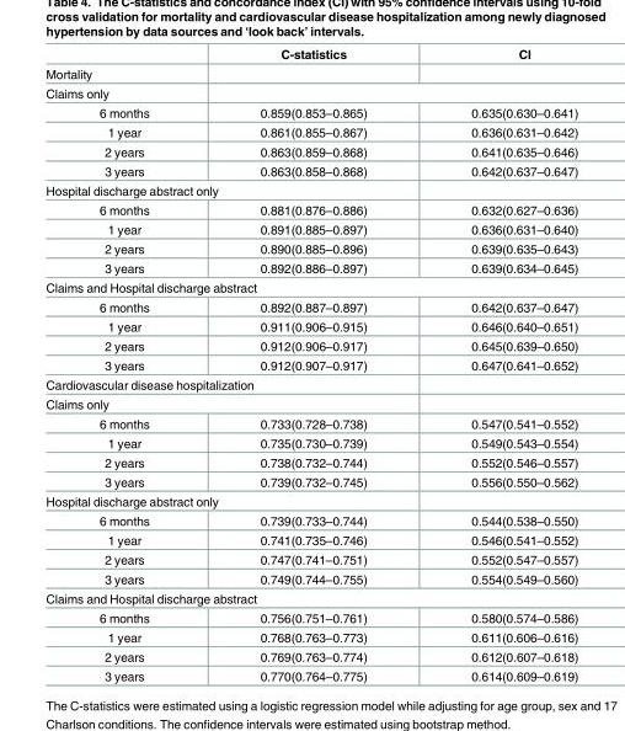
<table><thead><tr><td></td><td>C-statistics</td><td>CI</td></tr></thead><tbody><tr><td colspan="3">Mortality</td></tr><tr><td colspan="3">Claims only</td></tr><tr><td>6 months</td><td>0.859(0.853–0.865)</td><td>0.635(0.630–0.641)</td></tr><tr><td>1 year</td><td>0.861(0.855–0.867)</td><td>0.636(0.631–0.642)</td></tr><tr><td>2 years</td><td>0.863(0.859–0.868)</td><td>0.641(0.635–0.646)</td></tr><tr><td>3 years</td><td>0.863(0.858–0.868)</td><td>0.642(0.637–0.647)</td></tr><tr><td colspan="3">Hospital discharge abstract only</td></tr><tr><td>6 months</td><td>0.881(0.876–0.886)</td><td>0.632(0.627–0.636)</td></tr><tr><td>1 year</td><td>0.891(0.885–0.897)</td><td>0.636(0.631–0.640)</td></tr><tr><td>2 years</td><td>0.890(0.885–0.896)</td><td>0.639(0.635–0.643)</td></tr><tr><td>3 years</td><td>0.892(0.886–0.897)</td><td>0.639(0.634–0.645)</td></tr><tr><td colspan="3">Claims and Hospital discharge abstract</td></tr><tr><td>6 months</td><td>0.892(0.887–0.897)</td><td>0.642(0.637–0.647)</td></tr><tr><td>1 year</td><td>0.911(0.906–0.915)</td><td>0.646(0.640–0.651)</td></tr><tr><td>2 years</td><td>0.912(0.906–0.917)</td><td>0.645(0.639–0.650)</td></tr><tr><td>3 years</td><td>0.912(0.907–0.917)</td><td>0.647(0.641–0.652)</td></tr><tr><td colspan="3">Cardiovascular disease hospitalization</td></tr><tr><td colspan="3">Claims only</td></tr><tr><td>6 months</td><td>0.733(0.728–0.738)</td><td>0.547(0.541–0.552)</td></tr><tr><td>1 year</td><td>0.735(0.730–0.739)</td><td>0.549(0.543–0.554)</td></tr><tr><td>2 years</td><td>0.738(0.732–0.744)</td><td>0.552(0.546–0.557)</td></tr><tr><td>3 years</td><td>0.739(0.732–0.745)</td><td>0.556(0.550–0.562)</td></tr><tr><td colspan="3">Hospital discharge abstract only</td></tr><tr><td>6 months</td><td>0.739(0.733–0.744)</td><td>0.544(0.538–0.550)</td></tr><tr><td>1 year</td><td>0.741(0.735–0.746)</td><td>0.546(0.541–0.552)</td></tr><tr><td>2 years</td><td>0.747(0.741–0.751)</td><td>0.552(0.547–0.557)</td></tr><tr><td>3 years</td><td>0.749(0.744–0.755)</td><td>0.554(0.549–0.560)</td></tr><tr><td colspan="3">Claims and Hospital discharge abstract</td></tr><tr><td>6 months</td><td>0.756(0.751–0.761)</td><td>0.580(0.574–0.586)</td></tr><tr><td>1 year</td><td>0.768(0.763–0.773)</td><td>0.611(0.606–0.616)</td></tr><tr><td>2 years</td><td>0.769(0.763–0.774)</td><td>0.612(0.607–0.618)</td></tr><tr><td>3 years</td><td>0.770(0.764–0.775)</td><td>0.614(0.609–0.619)</td></tr></tbody></table>